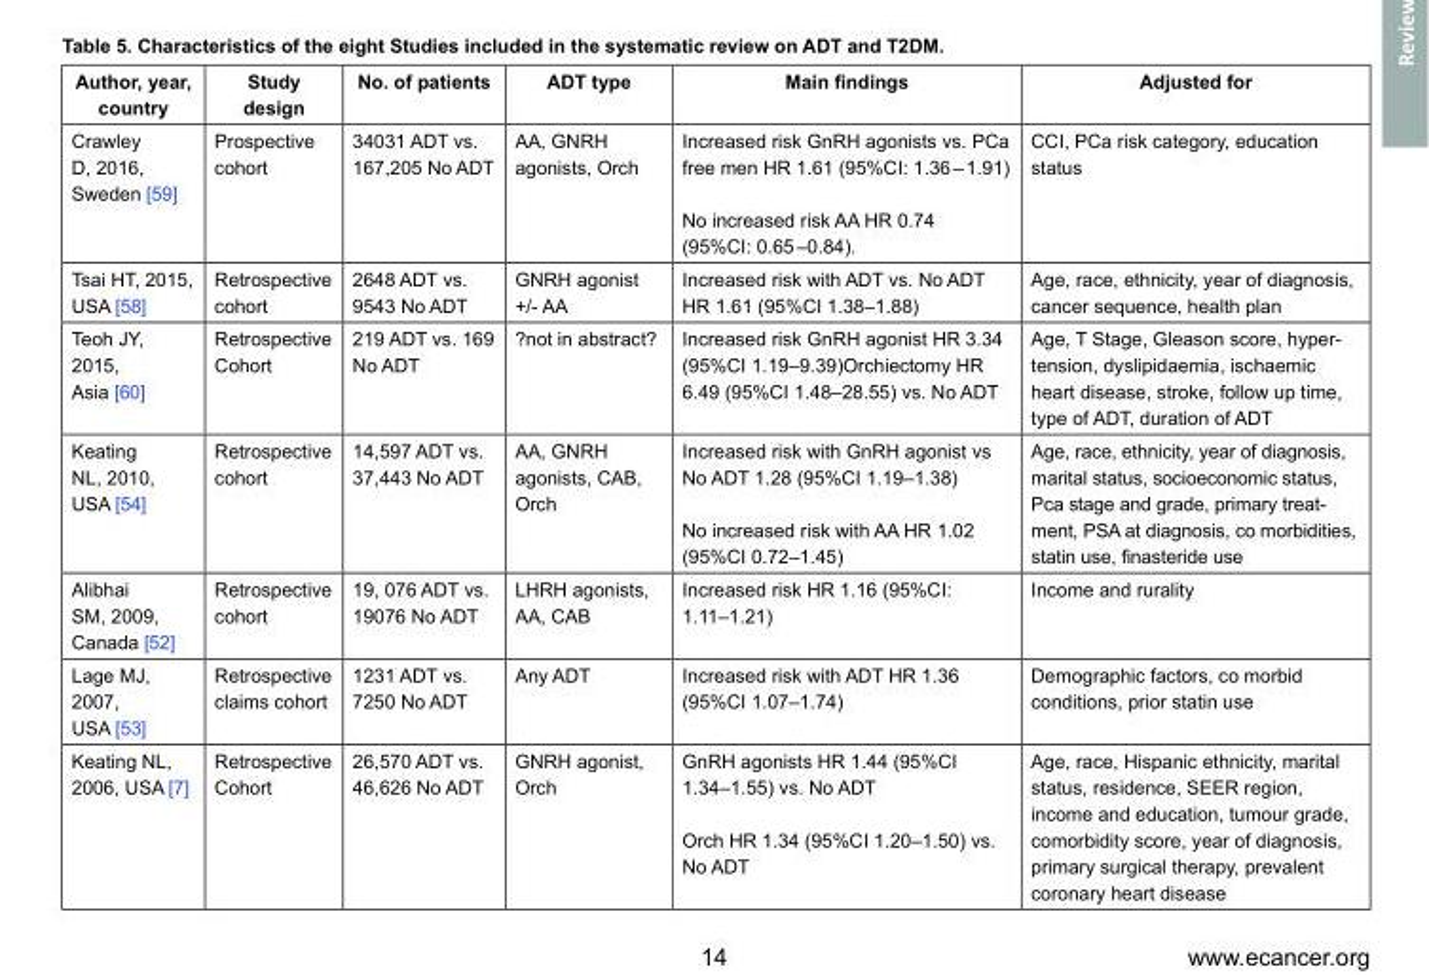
<table><thead><tr><td>Author, year, country</td><td>Study design</td><td>No. of patients</td><td>ADT type</td><td>Main findings</td><td>Adjusted for</td></tr></thead><tbody><tr><td>Crawley D, 2016, Sweden [59]</td><td>Prospective cohort</td><td>34031 ADT vs. 167,205 No ADT</td><td>AA, GNRH agonists, Orch</td><td>Increased risk GnRH agonists vs. PCa free men HR 1.61 (95%CI: 1.36 – 1.91) No increased risk AA HR 0.74 (95%CI: 0.65 –0.84).</td><td>CCI, PCa risk category, education status</td></tr><tr><td>Tsai HT, 2015, USA [58]</td><td>Retrospective cohort</td><td>2648 ADT vs. 9543 No ADT</td><td>GNRH agonist +/- AA</td><td>Increased risk with ADT vs. No ADT HR 1.61 (95%CI 1.38–1.88)</td><td>Age, race, ethnicity, year of diagnosis, cancer sequence, health plan</td></tr><tr><td>Teoh JY, 2015, Asia [60]</td><td>Retrospective Cohort</td><td>219 ADT vs. 169 No ADT</td><td>?not in abstract?</td><td>Increased risk GnRH agonist HR 3.34 (95%CI 1.19–9.39)Orchiectomy HR 6.49 (95%CI 1.48–28.55) vs. No ADT</td><td>Age, T Stage, Gleason score, hyper- tension, dyslipidaemia, ischaemic heart disease, stroke, follow up time, type of ADT, duration of ADT</td></tr><tr><td>Keating NL, 2010, USA [54]</td><td>Retrospective cohort</td><td>14,597 ADT vs. 37,443 No ADT</td><td>AA, GNRH agonists, CAB, Orch</td><td>Increased risk with GnRH agonist vs No ADT 1.28 (95%CI 1.19–1.38) No increased risk with AA HR 1.02 (95%CI 0.72–1.45)</td><td>Age, race, ethnicity, year of diagnosis, marital status, socioeconomic status, Pca stage and grade, primary treat- ment, PSA at diagnosis, co morbidities, statin use, finasteride use</td></tr><tr><td>Alibhai SM, 2009, Canada [52]</td><td>Retrospective cohort</td><td>19, 076 ADT vs. 19076 No ADT</td><td>LHRH agonists, AA, CAB</td><td>Increased risk HR 1.16 (95%CI: 1.11–1.21)</td><td>Income and rurality</td></tr><tr><td>Lage MJ, 2007, USA [53]</td><td>Retrospective claims cohort</td><td>1231 ADT vs. 7250 No ADT</td><td>Any ADT</td><td>Increased risk with ADT HR 1.36 (95%CI 1.07–1.74)</td><td>Demographic factors, co morbid conditions, prior statin use</td></tr><tr><td>Keating NL, 2006, USA [7]</td><td>Retrospective Cohort</td><td>26,570 ADT vs. 46,626 No ADT</td><td>GNRH agonist, Orch</td><td>GnRH agonists HR 1.44 (95%CI 1.34–1.55) vs. No ADT Orch HR 1.34 (95%CI 1.20–1.50) vs. No ADT</td><td>Age, race, Hispanic ethnicity, marital status, residence, SEER region, income and education, tumour grade, comorbidity score, year of diagnosis, primary surgical therapy, prevalent coronary heart disease</td></tr></tbody></table>